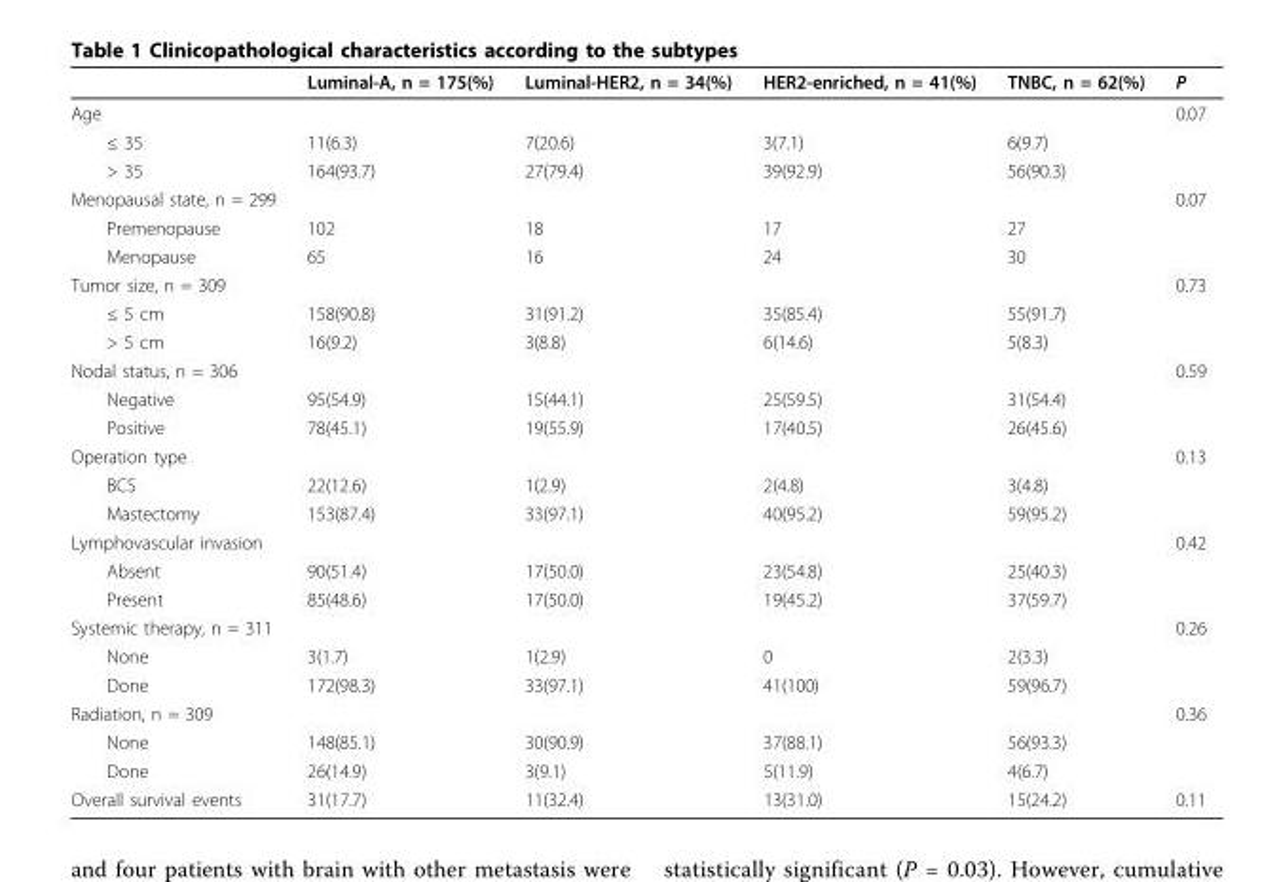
<table><thead><tr><td></td><td>Luminal-A, n = 175(%)</td><td>Luminal-HER2, n = 34(%)</td><td>HER2-enriched, n = 41(%)</td><td>TNBC, n = 62(%)</td><td>P</td></tr></thead><tbody><tr><td>Age</td><td></td><td></td><td></td><td></td><td>0.07</td></tr><tr><td>≤ 35</td><td>11(6.3)</td><td>7(20.6)</td><td>3(7.1)</td><td>6(9.7)</td><td></td></tr><tr><td>&gt; 35</td><td>164(93.7)</td><td>27(79.4)</td><td>39(92.9)</td><td>56(90.3)</td><td></td></tr><tr><td>Menopausal state, n = 299</td><td></td><td></td><td></td><td></td><td>0.07</td></tr><tr><td>Premenopause</td><td>102</td><td>18</td><td>17</td><td>27</td><td></td></tr><tr><td>Menopause</td><td>65</td><td>16</td><td>24</td><td>30</td><td></td></tr><tr><td>Tumor size, n = 309</td><td></td><td></td><td></td><td></td><td>0.73</td></tr><tr><td>≤ 5 cm</td><td>158(90.8)</td><td>31(91.2)</td><td>35(85.4)</td><td>55(91.7)</td><td></td></tr><tr><td>&gt; 5 cm</td><td>16(9.2)</td><td>3(8.8)</td><td>6(14.6)</td><td>5(8.3)</td><td></td></tr><tr><td>Nodal status, n = 306</td><td></td><td></td><td></td><td></td><td>0.59</td></tr><tr><td>Negative</td><td>95(54.9)</td><td>15(44.1)</td><td>25(59.5)</td><td>31(54.4)</td><td></td></tr><tr><td>Positive</td><td>78(45.1)</td><td>19(55.9)</td><td>17(40.5)</td><td>26(45.6)</td><td></td></tr><tr><td>Operation type</td><td></td><td></td><td></td><td></td><td>0.13</td></tr><tr><td>BCS</td><td>22(12.6)</td><td>1(2.9)</td><td>2(4.8)</td><td>3(4.8)</td><td></td></tr><tr><td>Mastectomy</td><td>153(87.4)</td><td>33(97.1)</td><td>40(95.2)</td><td>59(95.2)</td><td></td></tr><tr><td>Lymphovascular invasion</td><td></td><td></td><td></td><td></td><td>0.42</td></tr><tr><td>Absent</td><td>90(51.4)</td><td>17(50.0)</td><td>23(54.8)</td><td>25(40.3)</td><td></td></tr><tr><td>Present</td><td>85(48.6)</td><td>17(50.0)</td><td>19(45.2)</td><td>37(59.7)</td><td></td></tr><tr><td>Systemic therapy, n = 311</td><td></td><td></td><td></td><td></td><td>0.26</td></tr><tr><td>None</td><td>3(1.7)</td><td>1(2.9)</td><td>0</td><td>2(3.3)</td><td></td></tr><tr><td>Done</td><td>172(98.3)</td><td>33(97.1)</td><td>41(100)</td><td>59(96.7)</td><td></td></tr><tr><td>Radiation, n = 309</td><td></td><td></td><td></td><td></td><td>0.36</td></tr><tr><td>None</td><td>148(85.1)</td><td>30(90.9)</td><td>37(88.1)</td><td>56(93.3)</td><td></td></tr><tr><td>Done</td><td>26(14.9)</td><td>3(9.1)</td><td>5(11.9)</td><td>4(6.7)</td><td></td></tr><tr><td>Overall survival events</td><td>31(17.7)</td><td>11(32.4)</td><td>13(31.0)</td><td>15(24.2)</td><td>0.11</td></tr></tbody></table>